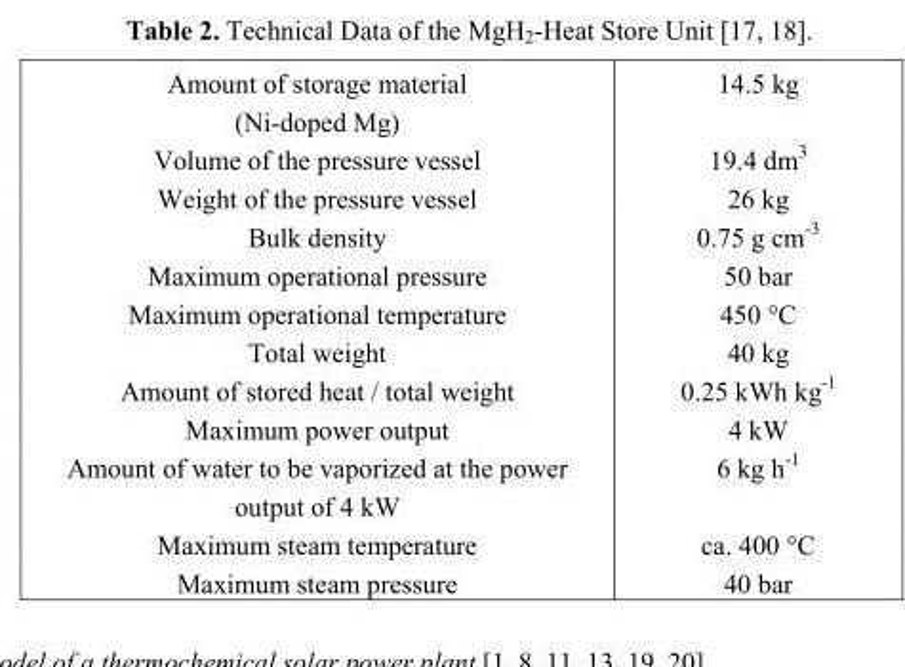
<table><tbody><tr><td>Amount of storage material (Ni-doped Mg)</td><td>14.5 kg</td></tr><tr><td>Volume of the pressure vessel</td><td>19.4 dm<sup>3</sup></td></tr><tr><td>Weight of the pressure vessel</td><td>26 kg</td></tr><tr><td>Bulk density</td><td>0.75 g cm<sup>-3</sup></td></tr><tr><td>Maximum operational pressure</td><td>50 bar</td></tr><tr><td>Maximum operational temperature</td><td>450 °C</td></tr><tr><td>Total weight</td><td>40 kg</td></tr><tr><td>Amount of stored heat / total weight</td><td>0.25 kWh kg<sup>-1</sup></td></tr><tr><td>Maximum power output</td><td>4 kW</td></tr><tr><td>Amount of water to be vaporized at the power output of 4 kW</td><td>6 kg h<sup>-1</sup></td></tr><tr><td>Maximum steam temperature</td><td>ca. 400 °C</td></tr><tr><td>Maximum steam pressure</td><td>40 bar</td></tr></tbody></table>